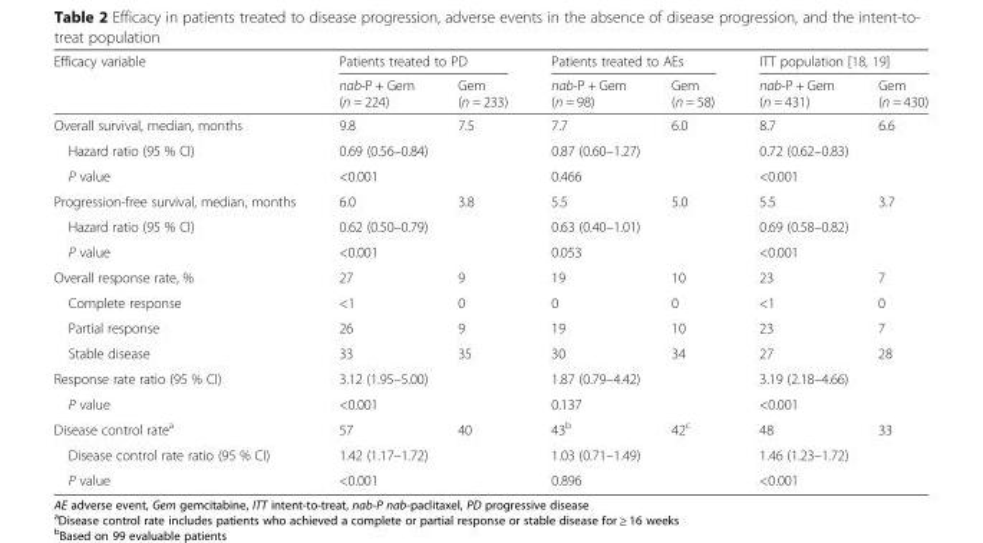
<table><thead><tr><td rowspan="2">Efficacy variable</td><td colspan="2">Patients treated to PD</td><td colspan="2">Patients treated to AEs</td><td colspan="2">ITT population [18, 19]</td></tr><tr><td>nab-P + Gem (n = 224)</td><td>Gem (n = 233)</td><td>nab-P + Gem (n = 98)</td><td>Gem (n = 58)</td><td>nab-P + Gem (n = 431)</td><td>Gem (n = 430)</td></tr></thead><tbody><tr><td>Overall survival, median, months</td><td>9.8</td><td>7.5</td><td>7.7</td><td>6.0</td><td>8.7</td><td>6.6</td></tr><tr><td>Hazard ratio (95 % CI)</td><td colspan="2">0.69 (0.56–0.84)</td><td colspan="2">0.87 (0.60–1.27)</td><td colspan="2">0.72 (0.62–0.83)</td></tr><tr><td>P value</td><td colspan="2">&lt;0.001</td><td colspan="2">0.466</td><td colspan="2">&lt;0.001</td></tr><tr><td>Progression-free survival, median, months</td><td>6.0</td><td>3.8</td><td>5.5</td><td>5.0</td><td>5.5</td><td>3.7</td></tr><tr><td>Hazard ratio (95 % CI)</td><td colspan="2">0.62 (0.50–0.79)</td><td colspan="2">0.63 (0.40–1.01)</td><td colspan="2">0.69 (0.58–0.82)</td></tr><tr><td>P value</td><td colspan="2">&lt;0.001</td><td colspan="2">0.053</td><td colspan="2">&lt;0.001</td></tr><tr><td>Overall response rate, %</td><td>27</td><td>9</td><td>19</td><td>10</td><td>23</td><td>7</td></tr><tr><td>Complete response</td><td>&lt;1</td><td>0</td><td>0</td><td>0</td><td>&lt;1</td><td>0</td></tr><tr><td>Partial response</td><td>26</td><td>9</td><td>19</td><td>10</td><td>23</td><td>7</td></tr><tr><td>Stable disease</td><td>33</td><td>35</td><td>30</td><td>34</td><td>27</td><td>28</td></tr><tr><td>Response rate ratio (95 % CI)</td><td colspan="2">3.12 (1.95–5.00)</td><td colspan="2">1.87 (0.79–4.42)</td><td colspan="2">3.19 (2.18–4.66)</td></tr><tr><td>P value</td><td colspan="2">&lt;0.001</td><td colspan="2">0.137</td><td colspan="2">&lt;0.001</td></tr><tr><td>Disease control rate<sup>a</sup></td><td>57</td><td>40</td><td>43<sup>b</sup></td><td>42<sup>c</sup></td><td>48</td><td>33</td></tr><tr><td>Disease control rate ratio (95 % CI)</td><td colspan="2">1.42 (1.17–1.72)</td><td colspan="2">1.03 (0.71–1.49)</td><td colspan="2">1.46 (1.23–1.72)</td></tr><tr><td>P value</td><td colspan="2">&lt;0.001</td><td colspan="2">0.896</td><td colspan="2">&lt;0.001</td></tr></tbody></table>